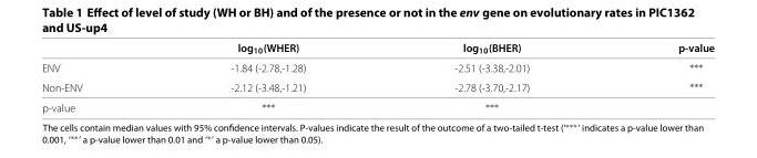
<table><thead><tr><td></td><td>log<sub>10</sub>(WHER)</td><td>log<sub>10</sub>(BHER)</td><td>p-value</td></tr></thead><tbody><tr><td>ENV</td><td>-1.84 (-2.78,-1.28)</td><td>-2.51 (-3.38,-2.01)</td><td>∗∗∗</td></tr><tr><td>Non-ENV</td><td>-2.12 (-3.48,-1.21)</td><td>-2.78 (-3.70,-2.17)</td><td>∗∗∗</td></tr><tr><td>p-value</td><td>∗∗∗</td><td>∗∗∗</td><td></td></tr></tbody></table>